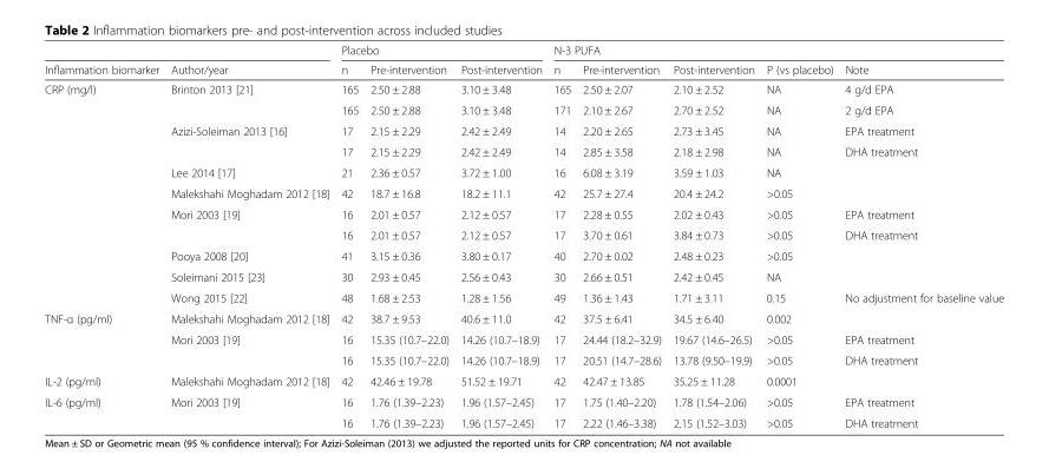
<table><thead><tr><td rowspan="2">Inflammation biomarker</td><td rowspan="2">Author/year</td><td colspan="3">Placebo</td><td colspan="5">N-3 PUFA</td></tr><tr><td>n</td><td>Pre-intervention</td><td>Post-intervention</td><td>n</td><td>Pre-intervention</td><td>Post-intervention</td><td>P (vs placebo)</td><td>Note</td></tr></thead><tbody><tr><td rowspan="11">CRP (mg/l)</td><td rowspan="2">Brinton 2013 [21]</td><td>165</td><td>2.50 ± 2.88</td><td>3.10 ± 3.48</td><td>165</td><td>2.50 ± 2.07</td><td>2.10 ± 2.52</td><td>NA</td><td>4 g/d EPA</td></tr><tr><td>165</td><td>2.50 ± 2.88</td><td>3.10 ± 3.48</td><td>171</td><td>2.10 ± 2.67</td><td>2.70 ± 2.52</td><td>NA</td><td>2 g/d EPA</td></tr><tr><td rowspan="2">Azizi-Soleiman 2013 [16]</td><td>17</td><td>2.15 ± 2.29</td><td>2.42 ± 2.49</td><td>14</td><td>2.20 ± 2.65</td><td>2.73 ± 3.45</td><td>NA</td><td>EPA treatment</td></tr><tr><td>17</td><td>2.15 ± 2.29</td><td>2.42 ± 2.49</td><td>14</td><td>2.85 ± 3.58</td><td>2.18 ± 2.98</td><td>NA</td><td>DHA treatment</td></tr><tr><td>Lee 2014 [17]</td><td>21</td><td>2.36 ± 0.57</td><td>3.72 ± 1.00</td><td>16</td><td>6.08 ± 3.19</td><td>3.59 ± 1.03</td><td>NA</td><td></td></tr><tr><td>Malekshahi Moghadam 2012 [18]</td><td>42</td><td>18.7 ± 16.8</td><td>18.2 ± 11.1</td><td>42</td><td>25.7 ± 27.4</td><td>20.4 ± 24.2</td><td>&gt;0.05</td><td></td></tr><tr><td rowspan="2">Mori 2003 [19]</td><td>16</td><td>2.01 ± 0.57</td><td>2.12 ± 0.57</td><td>17</td><td>2.28 ± 0.55</td><td>2.02 ± 0.43</td><td>&gt;0.05</td><td>EPA treatment</td></tr><tr><td>16</td><td>2.01 ± 0.57</td><td>2.12 ± 0.57</td><td>17</td><td>3.70 ± 0.61</td><td>3.84 ± 0.73</td><td>&gt;0.05</td><td>DHA treatment</td></tr><tr><td>Pooya 2008 [20]</td><td>41</td><td>3.15 ± 0.36</td><td>3.80 ± 0.17</td><td>40</td><td>2.70 ± 0.02</td><td>2.48 ± 0.23</td><td>&gt;0.05</td><td></td></tr><tr><td>Soleimani 2015 [23]</td><td>30</td><td>2.93 ± 0.45</td><td>2.56 ± 0.43</td><td>30</td><td>2.66 ± 0.51</td><td>2.42 ± 0.45</td><td>NA</td><td></td></tr><tr><td>Wong 2015 [22]</td><td>48</td><td>1.68 ± 2.53</td><td>1.28 ± 1.56</td><td>49</td><td>1.36 ± 1.43</td><td>1.71 ± 3.11</td><td>0.15</td><td>No adjustment for baseline value</td></tr><tr><td rowspan="3">TNF-α (pg/ml)</td><td>Malekshahi Moghadam 2012 [18]</td><td>42</td><td>38.7 ± 9.53</td><td>40.6 ± 11.0</td><td>42</td><td>37.5 ± 6.41</td><td>34.5 ± 6.40</td><td>0.002</td><td></td></tr><tr><td rowspan="2">Mori 2003 [19]</td><td>16</td><td>15.35 (10.7–22.0)</td><td>14.26 (10.7–18.9)</td><td>17</td><td>24.44 (18.2–32.9)</td><td>19.67 (14.6–26.5)</td><td>&gt;0.05</td><td>EPA treatment</td></tr><tr><td>16</td><td>15.35 (10.7–22.0)</td><td>14.26 (10.7–18.9)</td><td>17</td><td>20.51 (14.7–28.6)</td><td>13.78 (9.50–19.9)</td><td>&gt;0.05</td><td>DHA treatment</td></tr><tr><td>IL-2 (pg/ml)</td><td>Malekshahi Moghadam 2012 [18]</td><td>42</td><td>42.46 ± 19.78</td><td>51.52 ± 19.71</td><td>42</td><td>42.47 ± 13.85</td><td>35.25 ± 11.28</td><td>0.0001</td><td></td></tr><tr><td rowspan="2">IL-6 (pg/ml)</td><td rowspan="2">Mori 2003 [19]</td><td>16</td><td>1.76 (1.39–2.23)</td><td>1.96 (1.57–2.45)</td><td>17</td><td>1.75 (1.40–2.20)</td><td>1.78 (1.54–2.06)</td><td>&gt;0.05</td><td>EPA treatment</td></tr><tr><td>16</td><td>1.76 (1.39–2.23)</td><td>1.96 (1.57–2.45)</td><td>17</td><td>2.22 (1.46–3.38)</td><td>2.15 (1.52–3.03)</td><td>&gt;0.05</td><td>DHA treatment</td></tr></tbody></table>